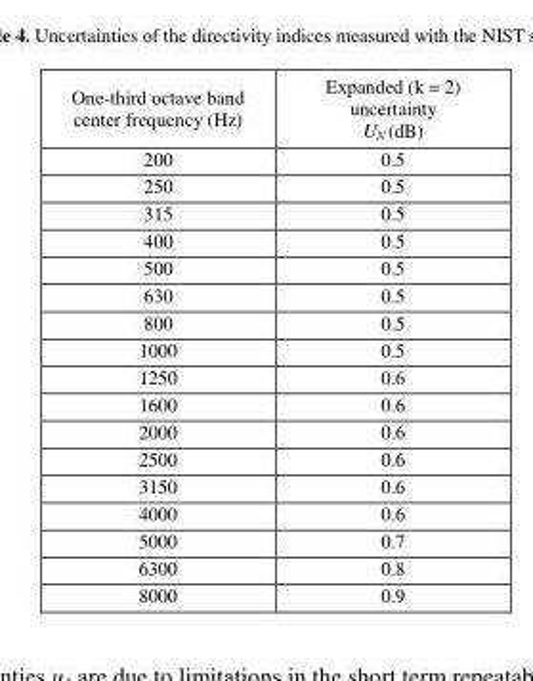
<table><thead><tr><td>One-third octave band center frequency (Hz)</td><td>Expanded (k = 2) uncertainty U<sub>N</sub> (dB)</td></tr></thead><tbody><tr><td>200</td><td>0.5</td></tr><tr><td>250</td><td>0.5</td></tr><tr><td>315</td><td>0.5</td></tr><tr><td>400</td><td>0.5</td></tr><tr><td>500</td><td>0.5</td></tr><tr><td>630</td><td>0.5</td></tr><tr><td>800</td><td>0.5</td></tr><tr><td>1000</td><td>0.5</td></tr><tr><td>1250</td><td>0.6</td></tr><tr><td>1600</td><td>0.6</td></tr><tr><td>2000</td><td>0.6</td></tr><tr><td>2500</td><td>0.6</td></tr><tr><td>3150</td><td>0.6</td></tr><tr><td>4000</td><td>0.6</td></tr><tr><td>5000</td><td>0.7</td></tr><tr><td>6300</td><td>0.8</td></tr><tr><td>8000</td><td>0.9</td></tr></tbody></table>